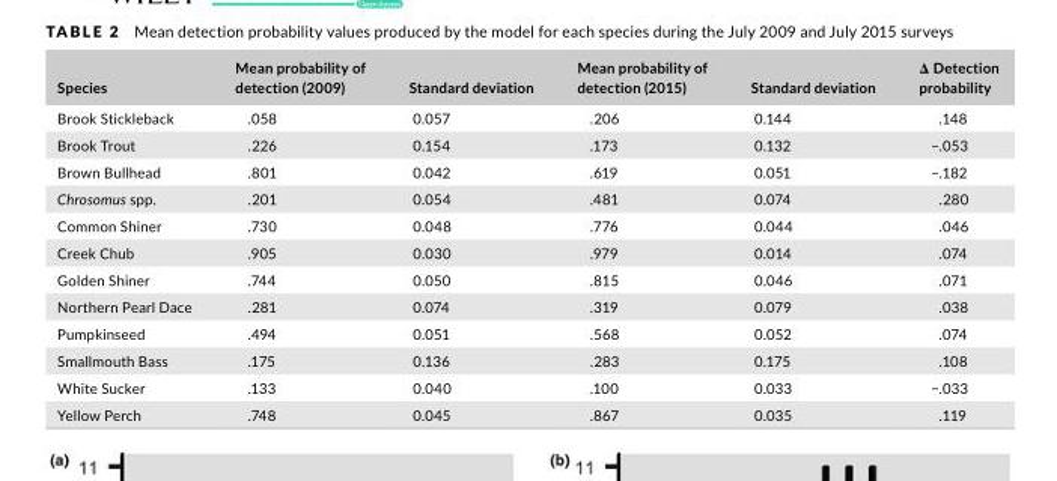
<table><thead><tr><td>Species</td><td>Mean probability of detection (2009)</td><td>Standard deviation</td><td>Mean probability of detection (2015)</td><td>Standard deviation</td><td>Δ Detection probability</td></tr></thead><tbody><tr><td>Brook Stickleback</td><td>.058</td><td>0.057</td><td>.206</td><td>0.144</td><td>.148</td></tr><tr><td>Brook Trout</td><td>.226</td><td>0.154</td><td>.173</td><td>0.132</td><td>−.053</td></tr><tr><td>Brown Bullhead</td><td>.801</td><td>0.042</td><td>.619</td><td>0.051</td><td>−.182</td></tr><tr><td>Chrosomus spp.</td><td>.201</td><td>0.054</td><td>.481</td><td>0.074</td><td>.280</td></tr><tr><td>Common Shiner</td><td>.730</td><td>0.048</td><td>.776</td><td>0.044</td><td>.046</td></tr><tr><td>Creek Chub</td><td>.905</td><td>0.030</td><td>.979</td><td>0.014</td><td>.074</td></tr><tr><td>Golden Shiner</td><td>.744</td><td>0.050</td><td>.815</td><td>0.046</td><td>.071</td></tr><tr><td>Northern Pearl Dace</td><td>.281</td><td>0.074</td><td>.319</td><td>0.079</td><td>.038</td></tr><tr><td>Pumpkinseed</td><td>.494</td><td>0.051</td><td>.568</td><td>0.052</td><td>.074</td></tr><tr><td>Smallmouth Bass</td><td>.175</td><td>0.136</td><td>.283</td><td>0.175</td><td>.108</td></tr><tr><td>White Sucker</td><td>.133</td><td>0.040</td><td>.100</td><td>0.033</td><td>−.033</td></tr><tr><td>Yellow Perch</td><td>.748</td><td>0.045</td><td>.867</td><td>0.035</td><td>.119</td></tr></tbody></table>